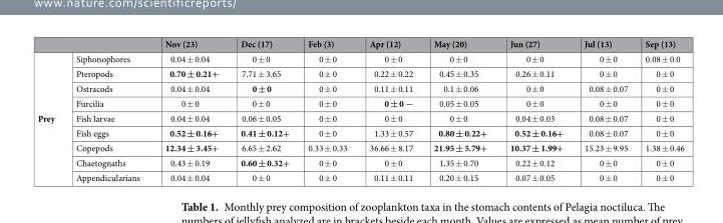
<table><thead><tr><td></td><td></td><td>Nov (23)</td><td>Dec (17)</td><td>Feb (3)</td><td>Apr (12)</td><td>May (20)</td><td>Jun (27)</td><td>Jul (13)</td><td>Sep (13)</td></tr></thead><tbody><tr><td rowspan="9">Prey</td><td>Siphonophores</td><td>0.04 ± 0.04</td><td>0 ± 0</td><td>0 ± 0</td><td>0 ± 0</td><td>0 ± 0</td><td>0 ± 0</td><td>0 ± 0</td><td>0.08 ± 0.0</td></tr><tr><td>Pteropods</td><td>0.70 ± 0.21+</td><td>7.71 ± 3.65</td><td>0 ± 0</td><td>0.22 ± 0.22</td><td>0.45 ± 0.35</td><td>0.26 ± 0.11</td><td>0 ± 0</td><td>0 ± 0</td></tr><tr><td>Ostracods</td><td>0.04 ± 0.04</td><td>0 ± 0</td><td>0 ± 0</td><td>0.11 ± 0.11</td><td>0.1 ± 0.06</td><td>0 ± 0</td><td>0.08 ± 0.07</td><td>0 ± 0</td></tr><tr><td>Furcilia</td><td>0 ± 0</td><td>0 ± 0</td><td>0 ± 0</td><td>0 ± 0 −</td><td>0.05 ± 0.05</td><td>0 ± 0</td><td>0 ± 0</td><td>0 ± 0</td></tr><tr><td>Fish larvae</td><td>0.04 ± 0.04</td><td>0.06 ± 0.05</td><td>0 ± 0</td><td>0 ± 0</td><td>0 ± 0</td><td>0.04 ± 0.03</td><td>0.08 ± 0.07</td><td>0 ± 0</td></tr><tr><td>Fish eggs</td><td>0.52 ± 0.16+</td><td>0.41 ± 0.12+</td><td>0 ± 0</td><td>1.33 ± 0.57</td><td>0.80 ± 0.22+</td><td>0.52 ± 0.16+</td><td>0.08 ± 0.07</td><td>0 ± 0</td></tr><tr><td>Copepods</td><td>12.34 ± 3.45+</td><td>6.65 ± 2.62</td><td>0.33 ± 0.33</td><td>36.66 ± 8.17</td><td>21.95 ± 5.79+</td><td>10.37 ± 1.99+</td><td>15.23 ± 9.95</td><td>1.38 ± 0.46</td></tr><tr><td>Chaetognaths</td><td>0.43 ± 0.19</td><td>0.60 ± 0.32+</td><td>0 ± 0</td><td>0 ± 0</td><td>1.35 ± 0.70</td><td>0.22 ± 0.12</td><td>0 ± 0</td><td>0 ± 0</td></tr><tr><td>Appendicularians</td><td>0.04 ± 0.04</td><td>0 ± 0</td><td>0 ± 0</td><td>0.11 ± 0.11</td><td>0.20 ± 0.15</td><td>0.07 ± 0.05</td><td>0 ± 0</td><td>0 ± 0</td></tr></tbody></table>